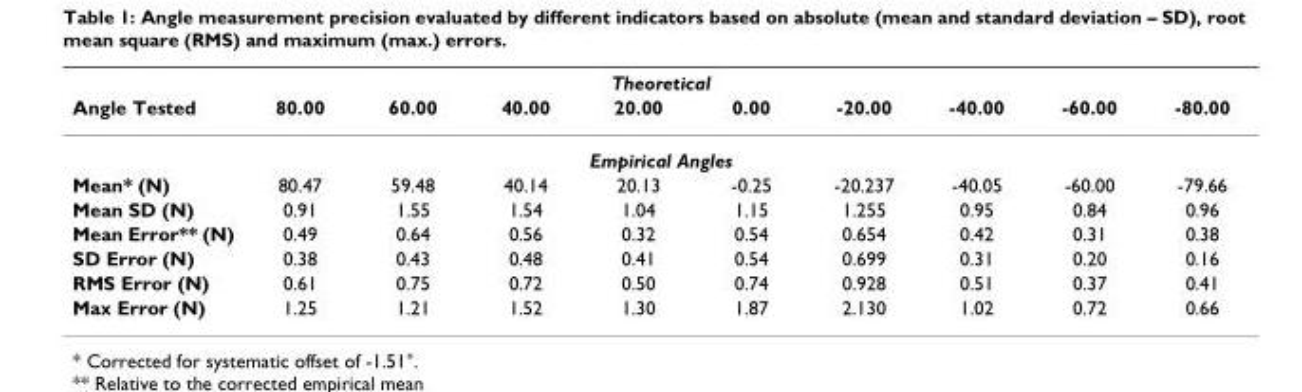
<table><thead><tr><td colspan="10">Theoretical</td></tr><tr><td>Angle Tested</td><td>80.00</td><td>60.00</td><td>40.00</td><td>20.00</td><td>0.00</td><td>-20.00</td><td>-40.00</td><td>-60.00</td><td>-80.00</td></tr></thead><tbody><tr><td colspan="10">Empirical Angles</td></tr><tr><td>Mean* (N)</td><td>80.47</td><td>59.48</td><td>40.14</td><td>20.13</td><td>-0.25</td><td>-20.237</td><td>-40.05</td><td>-60.00</td><td>-79.66</td></tr><tr><td>Mean SD (N)</td><td>0.91</td><td>1.55</td><td>1.54</td><td>1.04</td><td>1.15</td><td>1.255</td><td>0.95</td><td>0.84</td><td>0.96</td></tr><tr><td>Mean Error** (N)</td><td>0.49</td><td>0.64</td><td>0.56</td><td>0.32</td><td>0.54</td><td>0.654</td><td>0.42</td><td>0.31</td><td>0.38</td></tr><tr><td>SD Error (N)</td><td>0.38</td><td>0.43</td><td>0.48</td><td>0.41</td><td>0.54</td><td>0.699</td><td>0.31</td><td>0.20</td><td>0.16</td></tr><tr><td>RMS Error (N)</td><td>0.61</td><td>0.75</td><td>0.72</td><td>0.50</td><td>0.74</td><td>0.928</td><td>0.51</td><td>0.37</td><td>0.41</td></tr><tr><td>Max Error (N)</td><td>1.25</td><td>1.21</td><td>1.52</td><td>1.30</td><td>1.87</td><td>2.130</td><td>1.02</td><td>0.72</td><td>0.66</td></tr></tbody></table>